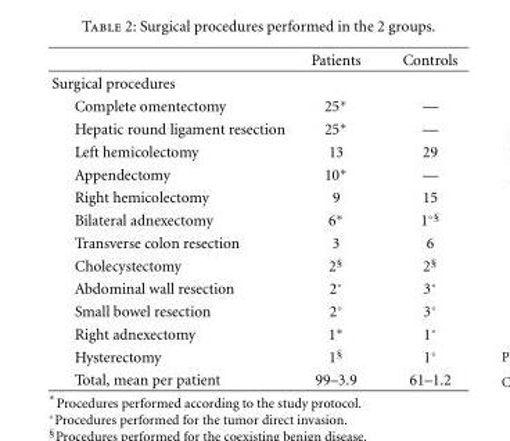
<table><thead><tr><td></td><td>Patients</td><td>Controls</td></tr></thead><tbody><tr><td colspan="3">Surgical procedures</td></tr><tr><td>Complete omentectomy</td><td>25∗</td><td>—</td></tr><tr><td>Hepatic round ligament resection</td><td>25∗</td><td>—</td></tr><tr><td>Left hemicolectomy</td><td>13</td><td>29</td></tr><tr><td>Appendectomy</td><td>10∗</td><td>—</td></tr><tr><td>Right hemicolectomy</td><td>9</td><td>15</td></tr><tr><td>Bilateral adnexectomy</td><td>6∗</td><td>1◦§</td></tr><tr><td>Transverse colon resection</td><td>3</td><td>6</td></tr><tr><td>Cholecystectomy</td><td>2<sup>§</sup></td><td>2<sup>§</sup></td></tr><tr><td>Abdominal wall resection</td><td>2◦</td><td>3◦</td></tr><tr><td>Small bowel resection</td><td>2◦</td><td>3◦</td></tr><tr><td>Right adnexectomy</td><td>1∗</td><td>1◦</td></tr><tr><td>Hysterectomy</td><td>1<sup>§</sup></td><td>1◦</td></tr><tr><td>Total, mean per patient</td><td>99–3.9</td><td>61–1.2</td></tr></tbody></table>